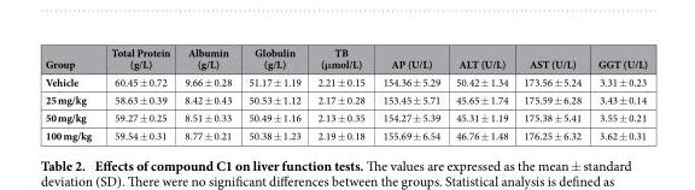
<table><thead><tr><td>Group</td><td>Total Protein (g/L)</td><td>Albumin (g/L)</td><td>Globulin (g/L)</td><td>TB (μmol/L)</td><td>AP (U/L)</td><td>ALT (U/L)</td><td>AST (U/L)</td><td>GGT (U/L)</td></tr></thead><tbody><tr><td>Vehicle</td><td>60.45 ± 0.72</td><td>9.66 ± 0.28</td><td>51.17 ± 1.19</td><td>2.21 ± 0.15</td><td>154.36 ± 5.29</td><td>50.42 ± 1.34</td><td>173.56 ± 5.24</td><td>3.31 ± 0.23</td></tr><tr><td>25 mg/kg</td><td>58.63 ± 0.39</td><td>8.42 ± 0.43</td><td>50.53 ± 1.12</td><td>2.17 ± 0.28</td><td>153.45 ± 5.71</td><td>45.65 ± 1.74</td><td>175.59 ± 6.28</td><td>3.43 ± 0.14</td></tr><tr><td>50 mg/kg</td><td>59.27 ± 0.25</td><td>8.51 ± 0.33</td><td>50.49 ± 1.16</td><td>2.13 ± 0.35</td><td>154.27 ± 5.39</td><td>45.31 ± 1.19</td><td>175.38 ± 5.41</td><td>3.55 ± 0.21</td></tr><tr><td>100 mg/kg</td><td>59.54 ± 0.31</td><td>8.77 ± 0.21</td><td>50.38 ± 1.23</td><td>2.19 ± 0.18</td><td>155.69 ± 6.54</td><td>46.76 ± 1.48</td><td>176.25 ± 6.32</td><td>3.62 ± 0.31</td></tr></tbody></table>